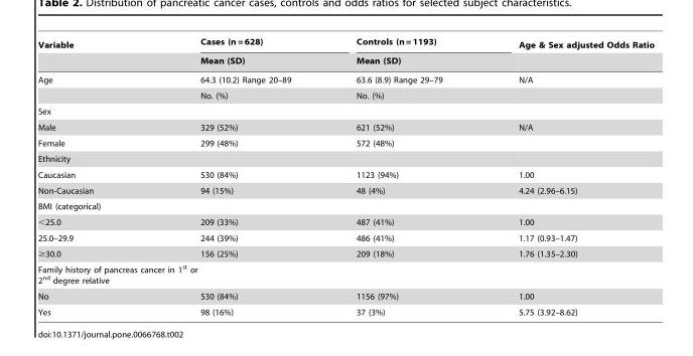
<table><thead><tr><td rowspan="2">Variable</td><td rowspan="2">Cases (n = 628) Mean (SD)</td><td rowspan="2">Controls (n = 1193) Mean (SD)</td><td rowspan="2">Age &amp; Sex adjusted Odds Ratio</td></tr><tr></tr></thead><tbody><tr><td rowspan="2">Age</td><td>64.3 (10.2) Range 20–89</td><td>63.6 (8.9) Range 29–79</td><td>N/A</td></tr><tr><td>No. (%)</td><td>No. (%)</td><td></td></tr><tr><td colspan="4">Sex</td></tr><tr><td>Male</td><td>329 (52%)</td><td>621 (52%)</td><td>N/A</td></tr><tr><td>Female</td><td>299 (48%)</td><td>572 (48%)</td><td></td></tr><tr><td colspan="4">Ethnicity</td></tr><tr><td>Caucasian</td><td>530 (84%)</td><td>1123 (94%)</td><td>1.00</td></tr><tr><td>Non-Caucasian</td><td>94 (15%)</td><td>48 (4%)</td><td>4.24 (2.96–6.15)</td></tr><tr><td colspan="4">BMI (categorical)</td></tr><tr><td>&lt;25.0</td><td>209 (33%)</td><td>487 (41%)</td><td>1.00</td></tr><tr><td>25.0–29.9</td><td>244 (39%)</td><td>486 (41%)</td><td>1.17 (0.93–1.47)</td></tr><tr><td>≥30.0</td><td>156 (25%)</td><td>209 (18%)</td><td>1.76 (1.35–2.30)</td></tr><tr><td colspan="4">Family history of pancreas cancer in 1<sup>st</sup> or 2<sup>nd</sup> degree relative</td></tr><tr><td>No</td><td>530 (84%)</td><td>1156 (97%)</td><td>1.00</td></tr><tr><td>Yes</td><td>98 (16%)</td><td>37 (3%)</td><td>5.75 (3.92–8.62)</td></tr></tbody></table>